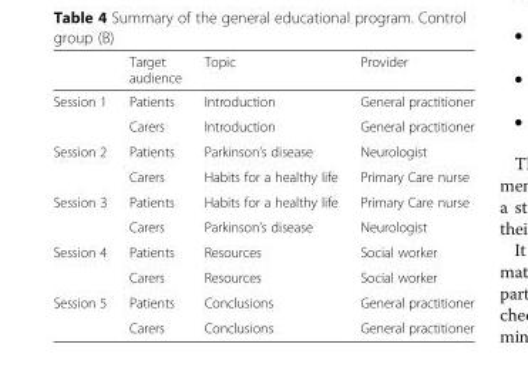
<table><thead><tr><td></td><td>Target audience</td><td>Topic</td><td>Provider</td></tr></thead><tbody><tr><td rowspan="2">Session 1</td><td>Patients</td><td>Introduction</td><td>General practitioner</td></tr><tr><td>Carers</td><td>Introduction</td><td>General practitioner</td></tr><tr><td rowspan="2">Session 2</td><td>Patients</td><td>Parkinson’s disease</td><td>Neurologist</td></tr><tr><td>Carers</td><td>Habits for a healthy life</td><td>Primary Care nurse</td></tr><tr><td rowspan="2">Session 3</td><td>Patients</td><td>Habits for a healthy life</td><td>Primary Care nurse</td></tr><tr><td>Carers</td><td>Parkinson’s disease</td><td>Neurologist</td></tr><tr><td rowspan="2">Session 4</td><td>Patients</td><td>Resources</td><td>Social worker</td></tr><tr><td>Carers</td><td>Resources</td><td>Social worker</td></tr><tr><td rowspan="2">Session 5</td><td>Patients</td><td>Conclusions</td><td>General practitioner</td></tr><tr><td>Carers</td><td>Conclusions</td><td>General practitioner</td></tr></tbody></table>